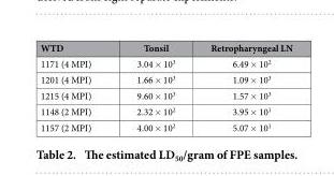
<table><thead><tr><td>WTD</td><td>Tonsil</td><td>Retropharyngeal LN</td></tr></thead><tbody><tr><td>1171 (4 MPI)</td><td>3.04 × 10<sup>3</sup></td><td>6.49 × 10<sup>2</sup></td></tr><tr><td>1201 (4 MPI)</td><td>1.66 × 10<sup>3</sup></td><td>1.09 × 10<sup>3</sup></td></tr><tr><td>1215 (4 MPI)</td><td>9.60 × 10<sup>3</sup></td><td>1.57 × 10<sup>3</sup></td></tr><tr><td>1148 (2 MPI)</td><td>2.32 × 10<sup>2</sup></td><td>3.95 × 10<sup>1</sup></td></tr><tr><td>1157 (2 MPI)</td><td>4.00 × 10<sup>2</sup></td><td>5.07 × 10<sup>1</sup></td></tr></tbody></table>